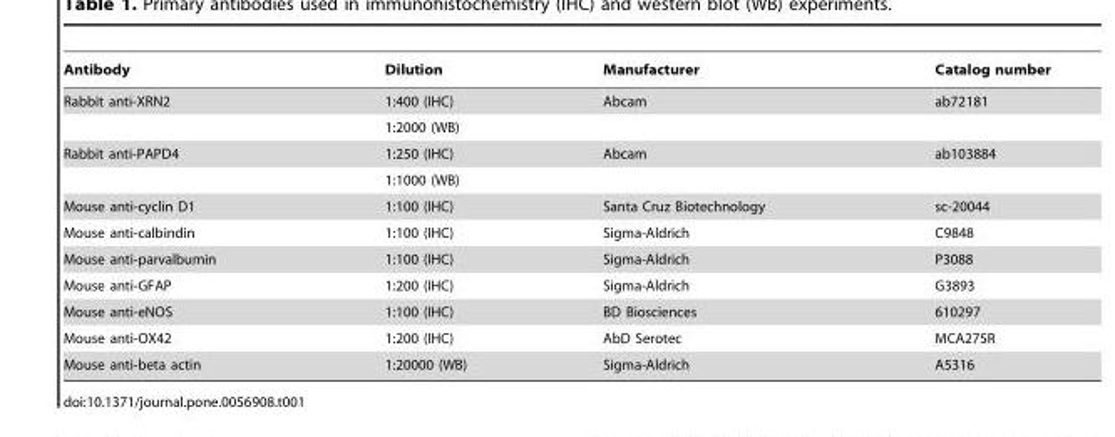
<table><thead><tr><td>Antibody</td><td>Dilution</td><td>Manufacturer</td><td>Catalog number</td></tr></thead><tbody><tr><td rowspan="2">Rabbit anti-XRN2</td><td>1:400 (IHC)</td><td>Abcam</td><td>ab72181</td></tr><tr><td>1:2000 (WB)</td><td></td><td></td></tr><tr><td rowspan="2">Rabbit anti-PAPD4</td><td>1:250 (IHC)</td><td>Abcam</td><td>ab103884</td></tr><tr><td>1:1000 (WB)</td><td></td><td></td></tr><tr><td>Mouse anti-cyclin D1</td><td>1:100 (IHC)</td><td>Santa Cruz Biotechnology</td><td>sc-20044</td></tr><tr><td>Mouse anti-calbindin</td><td>1:100 (IHC)</td><td>Sigma-Aldrich</td><td>C9848</td></tr><tr><td>Mouse anti-parvalbumin</td><td>1:100 (IHC)</td><td>Sigma-Aldrich</td><td>P3088</td></tr><tr><td>Mouse anti-GFAP</td><td>1:200 (IHC)</td><td>Sigma-Aldrich</td><td>G3893</td></tr><tr><td>Mouse anti-eNOS</td><td>1:100 (IHC)</td><td>BD Biosciences</td><td>610297</td></tr><tr><td>Mouse anti-OX42</td><td>1:200 (IHC)</td><td>AbD Serotec</td><td>MCA275R</td></tr><tr><td>Mouse anti-beta actin</td><td>1:20000 (WB)</td><td>Sigma-Aldrich</td><td>A5316</td></tr></tbody></table>